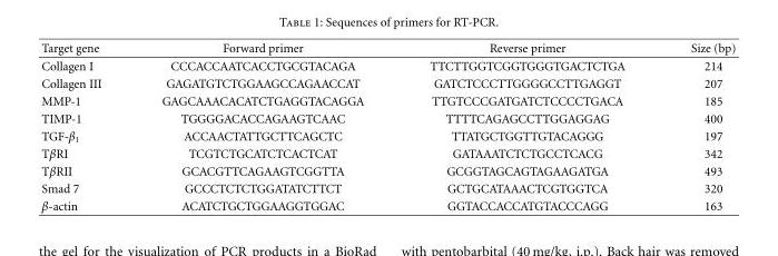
<table><thead><tr><td>Target gene</td><td>Forward primer</td><td>Reverse primer</td><td>Size (bp)</td></tr></thead><tbody><tr><td>Collagen I</td><td>CCCACCAATCACCTGCGTACAGA</td><td>TTCTTGGTCGGTGGGTGACTCTGA</td><td>214</td></tr><tr><td>Collagen III</td><td>GAGATGTCTGGAAGCCAGAACCAT</td><td>GATCTCCCTTGGGGCCTTGAGGT</td><td>207</td></tr><tr><td>MMP-1</td><td>GAGCAAACACATCTGAGGTACAGGA</td><td>TTGTCCCGATGATCTCCCCTGACA</td><td>185</td></tr><tr><td>TIMP-1</td><td>TGGGGACACCAGAAGTCAAC</td><td>TTTTCAGAGCCTTGGAGGAG</td><td>400</td></tr><tr><td>TGF-β<sub>1</sub></td><td>ACCAACTATTGCTTCAGCTC</td><td>TTATGCTGGTTGTACAGGG</td><td>197</td></tr><tr><td>TβRI</td><td>TCGTCTGCATCTCACTCAT</td><td>GATAAATCTCTGCCTCACG</td><td>342</td></tr><tr><td>TβRII</td><td>GCACGTTCAGAAGTCGGTTA</td><td>GCGGTAGCAGTAGAAGATGA</td><td>493</td></tr><tr><td>Smad 7</td><td>GCCCTCTCTGGATATCTTCT</td><td>GCTGCATAAACTCGTGGTCA</td><td>320</td></tr><tr><td>β-actin</td><td>ACATCTGCTGGAAGGTGGAC</td><td>GGTACCACCATGTACCCAGG</td><td>163</td></tr></tbody></table>